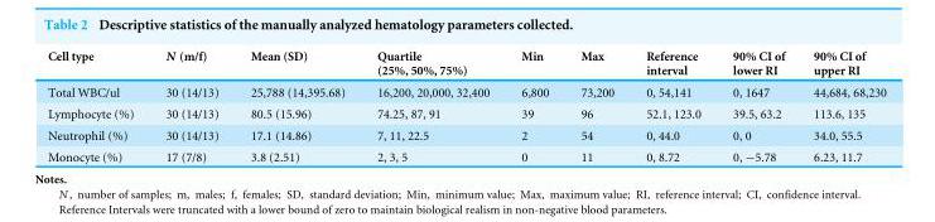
<table><thead><tr><td>Cell type</td><td>N (m/f)</td><td>Mean (SD)</td><td>Quartile (25%, 50%, 75%)</td><td>Min</td><td>Max</td><td>Reference interval</td><td>90% CI of lower RI</td><td>90% CI of upper RI</td></tr></thead><tbody><tr><td>Total WBC/ul</td><td>30 (14/13)</td><td>25,788 (14,395.68)</td><td>16,200, 20,000, 32,400</td><td>6,800</td><td>73,200</td><td>0, 54,141</td><td>0, 1647</td><td>44,684, 68,230</td></tr><tr><td>Lymphocyte (%)</td><td>30 (14/13)</td><td>80.5 (15.96)</td><td>74.25, 87, 91</td><td>39</td><td>96</td><td>52.1, 123.0</td><td>39.5, 63.2</td><td>113.6, 135</td></tr><tr><td>Neutrophil (%)</td><td>30 (14/13)</td><td>17.1 (14.86)</td><td>7, 11, 22.5</td><td>2</td><td>54</td><td>0, 44.0</td><td>0, 0</td><td>34.0, 55.5</td></tr><tr><td>Monocyte (%)</td><td>17 (7/8)</td><td>3.8 (2.51)</td><td>2, 3, 5</td><td>0</td><td>11</td><td>0, 8.72</td><td>0, −5.78</td><td>6.23, 11.7</td></tr></tbody></table>